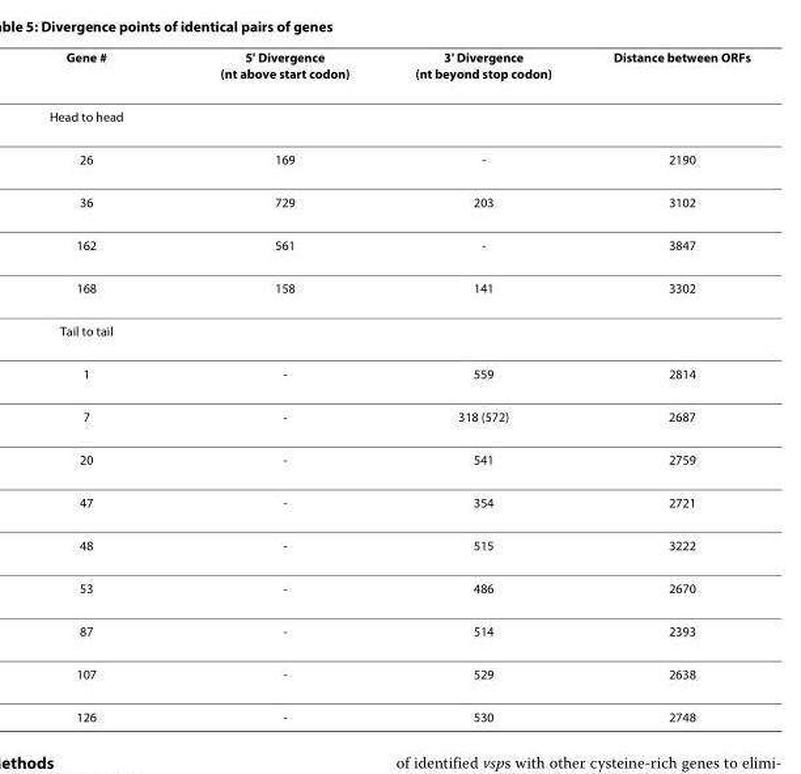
<table><thead><tr><td>Gene #</td><td>5&#x27; Divergence (nt above start codon)</td><td>3&#x27; Divergence (nt beyond stop codon)</td><td>Distance between ORFs</td></tr></thead><tbody><tr><td colspan="4">Head to head</td></tr><tr><td>26</td><td>169</td><td>-</td><td>2190</td></tr><tr><td>36</td><td>729</td><td>203</td><td>3102</td></tr><tr><td>162</td><td>561</td><td>-</td><td>3847</td></tr><tr><td>168</td><td>158</td><td>141</td><td>3302</td></tr><tr><td colspan="4">Tail to tail</td></tr><tr><td>1</td><td>-</td><td>559</td><td>2814</td></tr><tr><td>7</td><td>-</td><td>318 (572)</td><td>2687</td></tr><tr><td>20</td><td>-</td><td>541</td><td>2759</td></tr><tr><td>47</td><td>-</td><td>354</td><td>2721</td></tr><tr><td>48</td><td>-</td><td>515</td><td>3222</td></tr><tr><td>53</td><td>-</td><td>486</td><td>2670</td></tr><tr><td>87</td><td>-</td><td>514</td><td>2393</td></tr><tr><td>107</td><td>-</td><td>529</td><td>2638</td></tr><tr><td>126</td><td>-</td><td>530</td><td>2748</td></tr></tbody></table>